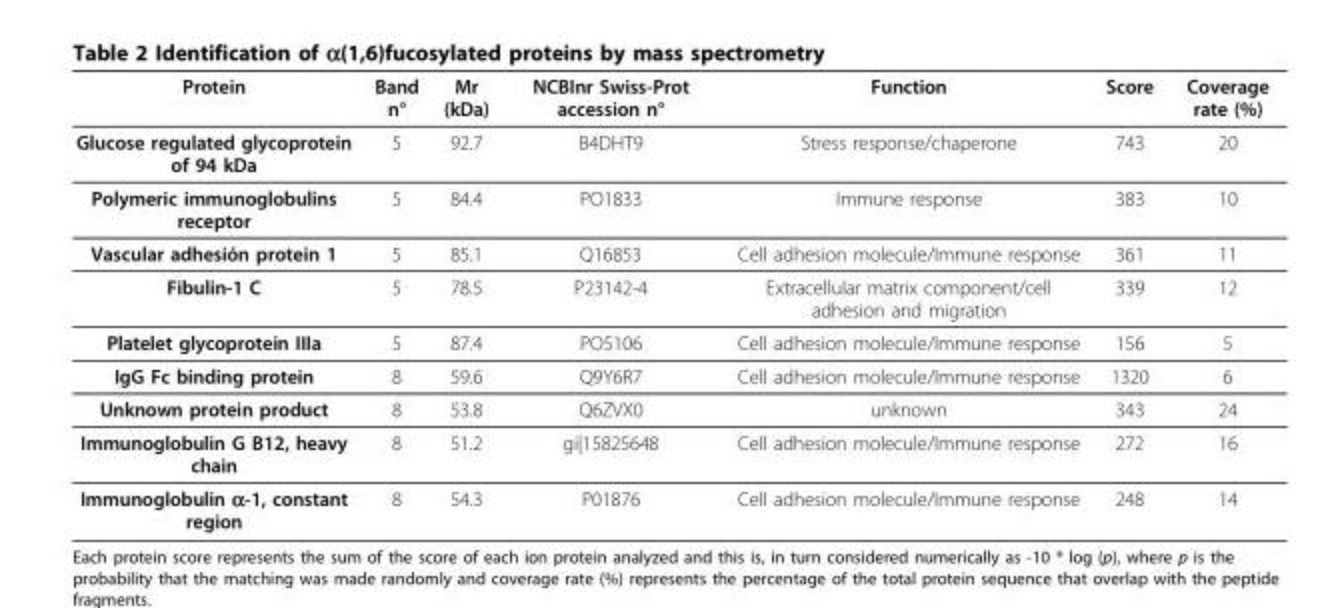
<table><thead><tr><td>Protein</td><td>Band n°</td><td>Mr (kDa)</td><td>NCBInr Swiss-Prot accession n°</td><td>Function</td><td>Score</td><td>Coverage rate (%)</td></tr></thead><tbody><tr><td>Glucose regulated glycoprotein of 94 kDa</td><td>5</td><td>92.7</td><td>B4DHT9</td><td>Stress response/chaperone</td><td>743</td><td>20</td></tr><tr><td>Polymeric immunoglobulins receptor</td><td>5</td><td>84.4</td><td>PO1833</td><td>Immune response</td><td>383</td><td>10</td></tr><tr><td>Vascular adhesión protein 1</td><td>5</td><td>85.1</td><td>Q16853</td><td>Cell adhesion molecule/Immune response</td><td>361</td><td>11</td></tr><tr><td>Fibulin-1 C</td><td>5</td><td>78.5</td><td>P23142-4</td><td>Extracellular matrix component/cell adhesion and migration</td><td>339</td><td>12</td></tr><tr><td>Platelet glycoprotein IIIa</td><td>5</td><td>87.4</td><td>PO5106</td><td>Cell adhesion molecule/Immune response</td><td>156</td><td>5</td></tr><tr><td>IgG Fc binding protein</td><td>8</td><td>59.6</td><td>Q9Y6R7</td><td>Cell adhesion molecule/Immune response</td><td>1320</td><td>6</td></tr><tr><td>Unknown protein product</td><td>8</td><td>53.8</td><td>Q6ZVX0</td><td>unknown</td><td>343</td><td>24</td></tr><tr><td>Immunoglobulin G B12, heavy chain</td><td>8</td><td>51.2</td><td>gi|15825648</td><td>Cell adhesion molecule/Immune response</td><td>272</td><td>16</td></tr><tr><td>Immunoglobulin α-1, constant region</td><td>8</td><td>54.3</td><td>P01876</td><td>Cell adhesion molecule/Immune response</td><td>248</td><td>14</td></tr></tbody></table>